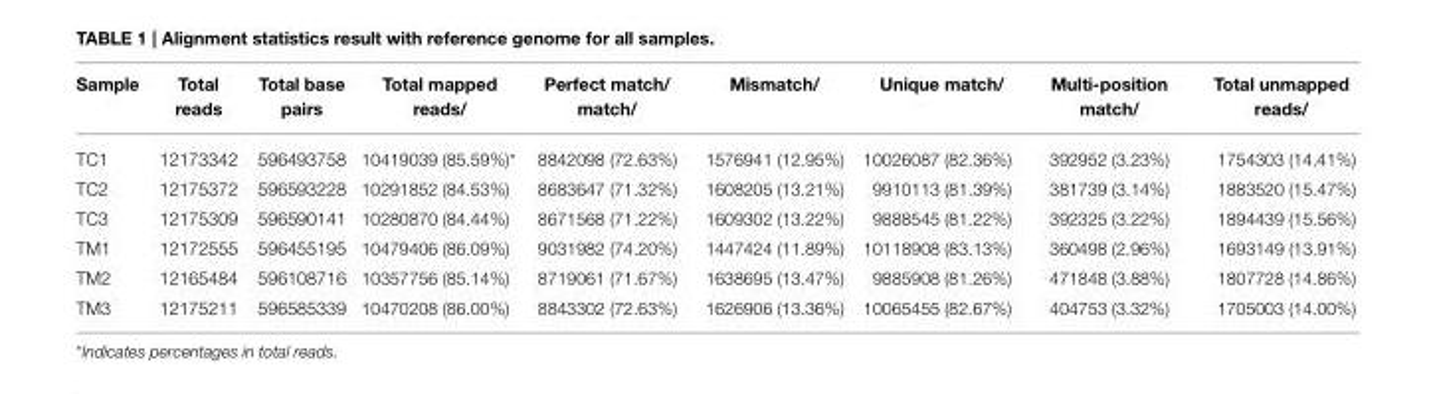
<table><thead><tr><td>Sample</td><td>Total reads</td><td>Total base pairs</td><td>Total mapped reads/</td><td>Perfect match/ match/</td><td>Mismatch/</td><td>Unique match/</td><td>Multi-position match/</td><td>Total unmapped reads/</td></tr></thead><tbody><tr><td>TC1</td><td>12173342</td><td>596493758</td><td>10419039 (85.59%)*</td><td>8842098 (72.63%)</td><td>1576941 (12.95%)</td><td>10026087 (82.36%)</td><td>392952 (3.23%)</td><td>1754303 (14.41%)</td></tr><tr><td>TC2</td><td>12175372</td><td>596593228</td><td>10291852 (84.53%)</td><td>8683647 (71.32%)</td><td>1608205 (13.21%)</td><td>9910113 (81.39%)</td><td>381739 (3.14%)</td><td>1883520 (15.47%)</td></tr><tr><td>TC3</td><td>12175309</td><td>596590141</td><td>10280870 (84.44%)</td><td>8671568 (71.22%)</td><td>1609302 (13.22%)</td><td>9888545 (81.22%)</td><td>392325 (3.22%)</td><td>1894439 (15.56%)</td></tr><tr><td>TM1</td><td>12172555</td><td>596455195</td><td>10479406 (86.09%)</td><td>9031982 (74.20%)</td><td>1447424 (11.89%)</td><td>10118908 (83.13%)</td><td>360498 (2.96%)</td><td>1693149 (13.91%)</td></tr><tr><td>TM2</td><td>12165484</td><td>596108716</td><td>10357756 (85.14%)</td><td>8719061 (71.67%)</td><td>1638695 (13.47%)</td><td>9885908 (81.26%)</td><td>471848 (3.88%)</td><td>1807728 (14.86%)</td></tr><tr><td>TM3</td><td>12175211</td><td>596585339</td><td>10470208 (86.00%)</td><td>8843302 (72.63%)</td><td>1626906 (13.36%)</td><td>10065455 (82.67%)</td><td>404753 (3.32%)</td><td>1705003 (14.00%)</td></tr></tbody></table>